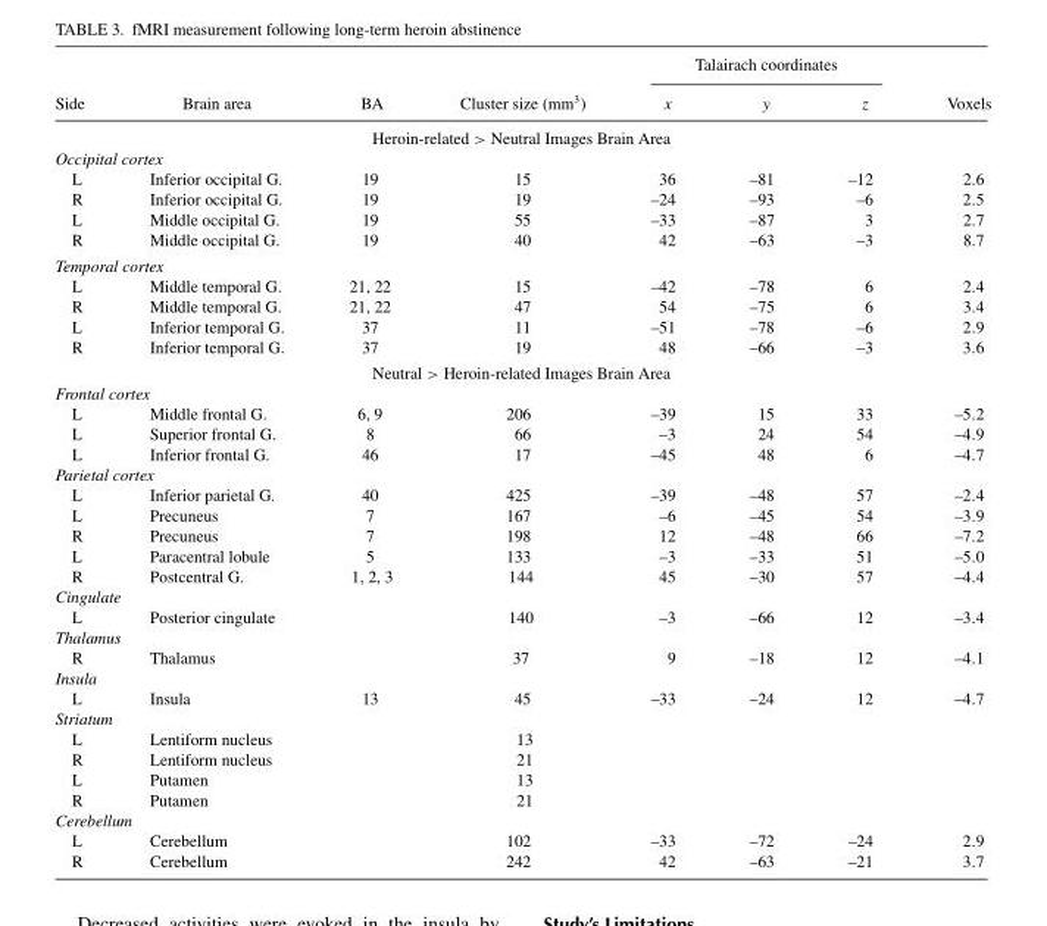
<table><thead><tr><td rowspan="2">Side</td><td rowspan="2">Brain area</td><td rowspan="2">BA</td><td rowspan="2">Cluster size (mm<sup>3</sup>)</td><td colspan="3">Talairach coordinates</td><td rowspan="2">Voxels</td></tr><tr><td>x</td><td>y</td><td>z</td></tr></thead><tbody><tr><td colspan="8">Heroin-related &gt; Neutral Images Brain Area</td></tr><tr><td colspan="8">Occipital cortex</td></tr><tr><td>L</td><td>Inferior occipital G.</td><td>19</td><td>15</td><td>36</td><td>–81</td><td>–12</td><td>2.6</td></tr><tr><td>R</td><td>Inferior occipital G.</td><td>19</td><td>19</td><td>–24</td><td>–93</td><td>–6</td><td>2.5</td></tr><tr><td>L</td><td>Middle occipital G.</td><td>19</td><td>55</td><td>–33</td><td>–87</td><td>3</td><td>2.7</td></tr><tr><td>R</td><td>Middle occipital G.</td><td>19</td><td>40</td><td>42</td><td>–63</td><td>–3</td><td>8.7</td></tr><tr><td colspan="8">Temporal cortex</td></tr><tr><td>L</td><td>Middle temporal G.</td><td>21, 22</td><td>15</td><td>–42</td><td>–78</td><td>6</td><td>2.4</td></tr><tr><td>R</td><td>Middle temporal G.</td><td>21, 22</td><td>47</td><td>54</td><td>–75</td><td>6</td><td>3.4</td></tr><tr><td>L</td><td>Inferior temporal G.</td><td>37</td><td>11</td><td>–51</td><td>–78</td><td>–6</td><td>2.9</td></tr><tr><td>R</td><td>Inferior temporal G.</td><td>37</td><td>19</td><td>48</td><td>–66</td><td>–3</td><td>3.6</td></tr><tr><td colspan="8">Neutral &gt; Heroin-related Images Brain Area</td></tr><tr><td colspan="8">Frontal cortex</td></tr><tr><td>L</td><td>Middle frontal G.</td><td>6, 9</td><td>206</td><td>–39</td><td>15</td><td>33</td><td>–5.2</td></tr><tr><td>L</td><td>Superior frontal G.</td><td>8</td><td>66</td><td>–3</td><td>24</td><td>54</td><td>–4.9</td></tr><tr><td>L</td><td>Inferior frontal G.</td><td>46</td><td>17</td><td>–45</td><td>48</td><td>6</td><td>–4.7</td></tr><tr><td colspan="8">Parietal cortex</td></tr><tr><td>L</td><td>Inferior parietal G.</td><td>40</td><td>425</td><td>–39</td><td>–48</td><td>57</td><td>–2.4</td></tr><tr><td>L</td><td>Precuneus</td><td>7</td><td>167</td><td>–6</td><td>–45</td><td>54</td><td>–3.9</td></tr><tr><td>R</td><td>Precuneus</td><td>7</td><td>198</td><td>12</td><td>–48</td><td>66</td><td>–7.2</td></tr><tr><td>L</td><td>Paracentral lobule</td><td>5</td><td>133</td><td>–3</td><td>–33</td><td>51</td><td>–5.0</td></tr><tr><td>R</td><td>Postcentral G.</td><td>1, 2, 3</td><td>144</td><td>45</td><td>–30</td><td>57</td><td>–4.4</td></tr><tr><td colspan="8">Cingulate</td></tr><tr><td>L</td><td>Posterior cingulate</td><td></td><td>140</td><td>–3</td><td>–66</td><td>12</td><td>–3.4</td></tr><tr><td colspan="8">Thalamus</td></tr><tr><td>R</td><td>Thalamus</td><td></td><td>37</td><td>9</td><td>–18</td><td>12</td><td>–4.1</td></tr><tr><td colspan="8">Insula</td></tr><tr><td>L</td><td>Insula</td><td>13</td><td>45</td><td>–33</td><td>–24</td><td>12</td><td>–4.7</td></tr><tr><td colspan="8">Striatum</td></tr><tr><td>L</td><td>Lentiform nucleus</td><td></td><td>13</td><td></td><td></td><td></td><td></td></tr><tr><td>R</td><td>Lentiform nucleus</td><td></td><td>21</td><td></td><td></td><td></td><td></td></tr><tr><td>L</td><td>Putamen</td><td></td><td>13</td><td></td><td></td><td></td><td></td></tr><tr><td>R</td><td>Putamen</td><td></td><td>21</td><td></td><td></td><td></td><td></td></tr><tr><td colspan="8">Cerebellum</td></tr><tr><td>L</td><td>Cerebellum</td><td></td><td>102</td><td>–33</td><td>–72</td><td>–24</td><td>2.9</td></tr><tr><td>R</td><td>Cerebellum</td><td></td><td>242</td><td>42</td><td>–63</td><td>–21</td><td>3.7</td></tr></tbody></table>